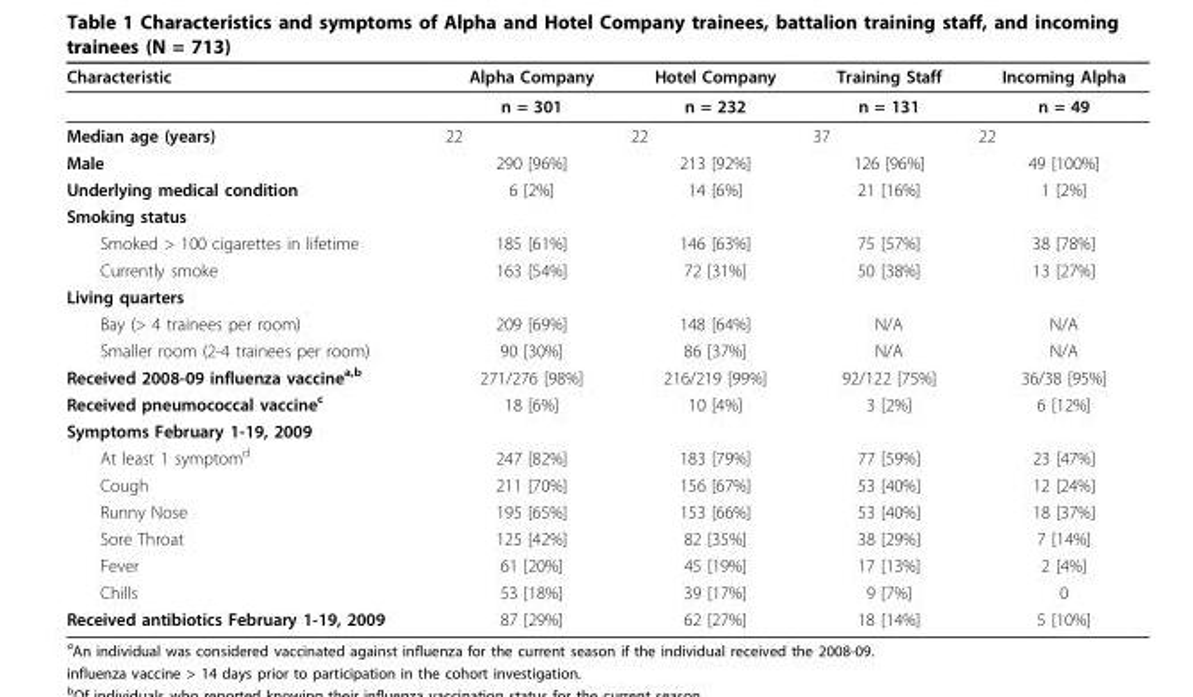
<table><thead><tr><td>Characteristic</td><td>Alpha Company</td><td>Hotel Company</td><td>Training Staff</td><td>Incoming Alpha</td></tr></thead><tbody><tr><td></td><td>n = 301</td><td>n = 232</td><td>n = 131</td><td>n = 49</td></tr><tr><td>Median age (years)</td><td>22</td><td>22</td><td>37</td><td>22</td></tr><tr><td>Male</td><td>290 [96%]</td><td>213 [92%]</td><td>126 [96%]</td><td>49 [100%]</td></tr><tr><td>Underlying medical condition</td><td>6 [2%]</td><td>14 [6%]</td><td>21 [16%]</td><td>1 [2%]</td></tr><tr><td colspan="5">Smoking status</td></tr><tr><td>Smoked &gt; 100 cigarettes in lifetime</td><td>185 [61%]</td><td>146 [63%]</td><td>75 [57%]</td><td>38 [78%]</td></tr><tr><td>Currently smoke</td><td>163 [54%]</td><td>72 [31%]</td><td>50 [38%]</td><td>13 [27%]</td></tr><tr><td colspan="5">Living quarters</td></tr><tr><td>Bay (&gt; 4 trainees per room)</td><td>209 [69%]</td><td>148 [64%]</td><td>N/A</td><td>N/A</td></tr><tr><td>Smaller room (2-4 trainees per room)</td><td>90 [30%]</td><td>86 [37%]</td><td>N/A</td><td>N/A</td></tr><tr><td>Received 2008-09 influenza vaccine<sup>a,b</sup></td><td>271/276 [98%]</td><td>216/219 [99%]</td><td>92/122 [75%]</td><td>36/38 [95%]</td></tr><tr><td>Received pneumococcal vaccine<sup>c</sup></td><td>18 [6%]</td><td>10 [4%]</td><td>3 [2%]</td><td>6 [12%]</td></tr><tr><td colspan="5">Symptoms February 1-19, 2009</td></tr><tr><td>At least 1 symptom<sup>d</sup></td><td>247 [82%]</td><td>183 [79%]</td><td>77 [59%]</td><td>23 [47%]</td></tr><tr><td>Cough</td><td>211 [70%]</td><td>156 [67%]</td><td>53 [40%]</td><td>12 [24%]</td></tr><tr><td>Runny Nose</td><td>195 [65%]</td><td>153 [66%]</td><td>53 [40%]</td><td>18 [37%]</td></tr><tr><td>Sore Throat</td><td>125 [42%]</td><td>82 [35%]</td><td>38 [29%]</td><td>7 [14%]</td></tr><tr><td>Fever</td><td>61 [20%]</td><td>45 [19%]</td><td>17 [13%]</td><td>2 [4%]</td></tr><tr><td>Chills</td><td>53 [18%]</td><td>39 [17%]</td><td>9 [7%]</td><td>0</td></tr><tr><td>Received antibiotics February 1-19, 2009</td><td>87 [29%]</td><td>62 [27%]</td><td>18 [14%]</td><td>5 [10%]</td></tr></tbody></table>